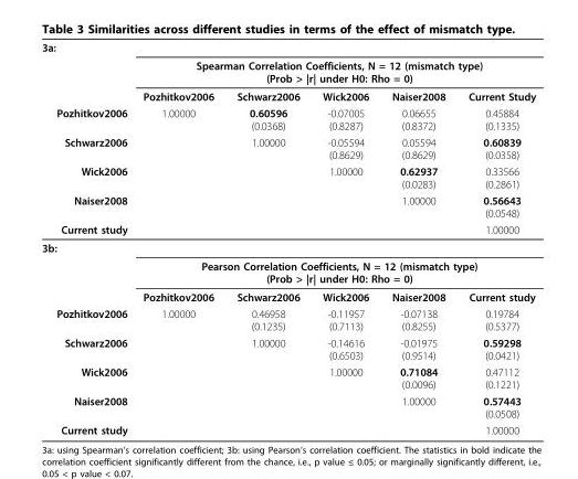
<table><thead><tr><td rowspan="8">3a: Pozhitkov2006 Schwarz2006 Wick2006 Naiser2008 Current study</td><td></td><td></td><td></td><td></td><td></td></tr><tr><td colspan="5">Spearman Correlation Coefficients, N = 12 (mismatch type) (Prob &gt; |r| under H0: Rho = 0)</td></tr><tr><td rowspan="6">Pozhitkov2006 1.00000</td><td rowspan="6">Schwarz2006 0.60596 (0.0368) 1.00000</td><td rowspan="6">Wick2006 -0.07005 (0.8287) -0.05594 (0.8629) 1.00000</td><td rowspan="6">Naiser2008 0.06655 (0.8372) 0.05594 (0.8629) 0.62937 (0.0283) 1.00000</td><td rowspan="6">Current Study 0.45884 (0.1335) 0.60839 (0.0358) 0.33566 (0.2861) 0.56643 (0.0548) 1.00000</td></tr><tr></tr><tr></tr><tr></tr><tr></tr><tr></tr></thead><tbody><tr><td colspan="6">3b:</td></tr><tr><td></td><td colspan="5">Pearson Correlation Coefficients, N = 12 (mismatch type) (Prob &gt; |r| under H0: Rho = 0)</td></tr><tr><td></td><td>Pozhitkov2006</td><td>Schwarz2006</td><td>Wick2006</td><td>Naiser2008</td><td>Current study</td></tr><tr><td>Pozhitkov2006</td><td>1.00000</td><td>0.46958 (0.1235)</td><td>-0.11957 (0.7113)</td><td>-0.07138 (0.8255)</td><td>0.19784 (0.5377)</td></tr><tr><td>Schwarz2006</td><td></td><td>1.00000</td><td>-0.14616 (0.6503)</td><td>-0.01975 (0.9514)</td><td>0.59298 (0.0421)</td></tr><tr><td>Wick2006</td><td></td><td></td><td>1.00000</td><td>0.71084 (0.0096)</td><td>0.47112 (0.1221)</td></tr><tr><td>Naiser2008</td><td></td><td></td><td></td><td>1.00000</td><td>0.57443 (0.0508)</td></tr><tr><td>Current study</td><td></td><td></td><td></td><td></td><td>1.00000</td></tr></tbody></table>